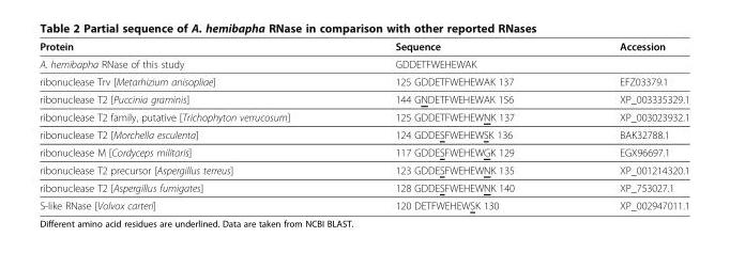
<table><thead><tr><td>Protein</td><td>Sequence</td><td>Accession</td></tr></thead><tbody><tr><td>A. hemibapha RNase of this study</td><td>GDDETFWEHEWAK</td><td></td></tr><tr><td>ribonuclease Trv [Metarhizium anisopliae]</td><td>125 GDDETFWEHEWAK 137</td><td>EFZ03379.1</td></tr><tr><td>ribonuclease T2 [Puccinia graminis]</td><td>144 GNDETFWEHEWAK 156</td><td>XP_003335329.1</td></tr><tr><td>ribonuclease T2 family, putative [Trichophyton verrucosum]</td><td>125 GDDETFWEHEWNK 137</td><td>XP_003023932.1</td></tr><tr><td>ribonuclease T2 [Morchella esculenta]</td><td>124 GDDESFWEHEWSK 136</td><td>BAK32788.1</td></tr><tr><td>ribonuclease M [Cordyceps militaris]</td><td>117 GDDESFWEHEWGK 129</td><td>EGX96697.1</td></tr><tr><td>ribonuclease T2 precursor [Aspergillus terreus]</td><td>123 GDDESFWEHEWNK 135</td><td>XP_001214320.1</td></tr><tr><td>ribonuclease T2 [Aspergillus fumigates]</td><td>128 GDDESFWEHEWNK 140</td><td>XP_753027.1</td></tr><tr><td>S-like RNase [Volvox carteri]</td><td>120 DETFWEHEWSK 130</td><td>XP_002947011.1</td></tr></tbody></table>